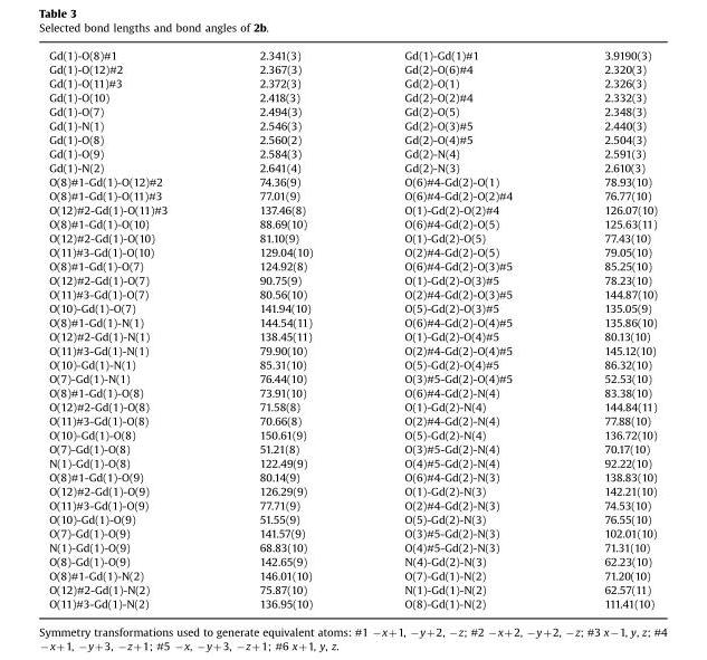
<table><tbody><tr><td>Gd(1)-O(8)#1</td><td>2.341(3)</td><td>Gd(1)-Gd(1)#1</td><td>3.9190(3)</td></tr><tr><td>Gd(1)-O(12)#2</td><td>2.367(3)</td><td>Gd(2)-O(6)#4</td><td>2.320(3)</td></tr><tr><td>Gd(1)-O(11)#3</td><td>2.372(3)</td><td>Gd(2)-O(1)</td><td>2.326(3)</td></tr><tr><td>Gd(1)-O(10)</td><td>2.418(3)</td><td>Gd(2)-O(2)#4</td><td>2.332(3)</td></tr><tr><td>Gd(1)-O(7)</td><td>2.494(3)</td><td>Gd(2)-O(5)</td><td>2.348(3)</td></tr><tr><td>Gd(1)-N(1)</td><td>2.546(3)</td><td>Gd(2)-O(3)#5</td><td>2.440(3)</td></tr><tr><td>Gd(1)-O(8)</td><td>2.560(2)</td><td>Gd(2)-O(4)#5</td><td>2.504(3)</td></tr><tr><td>Gd(1)-O(9)</td><td>2.584(3)</td><td>Gd(2)-N(4)</td><td>2.591(3)</td></tr><tr><td>Gd(1)-N(2)</td><td>2.641(4)</td><td>Gd(2)-N(3)</td><td>2.610(3)</td></tr><tr><td>O(8)#1-Gd(1)-O(12)#2</td><td>74.36(9)</td><td>O(6)#4-Gd(2)-O(1)</td><td>78.93(10)</td></tr><tr><td>O(8)#1-Gd(1)-O(11)#3</td><td>77.01(9)</td><td>O(6)#4-Gd(2)-O(2)#4</td><td>76.77(10)</td></tr><tr><td>O(12)#2-Gd(1)-O(11)#3</td><td>137.46(8)</td><td>O(1)-Gd(2)-O(2)#4</td><td>126.07(10)</td></tr><tr><td>O(8)#1-Gd(1)-O(10)</td><td>88.69(10)</td><td>O(6)#4-Gd(2)-O(5)</td><td>125.63(11)</td></tr><tr><td>O(12)#2-Gd(1)-O(10)</td><td>81.10(9)</td><td>O(1)-Gd(2)-O(5)</td><td>77.43(10)</td></tr><tr><td>O(11)#3-Gd(1)-O(10)</td><td>129.04(10)</td><td>O(2)#4-Gd(2)-O(5)</td><td>79.05(10)</td></tr><tr><td>O(8)#1-Gd(1)-O(7)</td><td>124.92(8)</td><td>O(6)#4-Gd(2)-O(3)#5</td><td>85.25(10)</td></tr><tr><td>O(12)#2-Gd(1)-O(7)</td><td>90.75(9)</td><td>O(1)-Gd(2)-O(3)#5</td><td>78.23(10)</td></tr><tr><td>O(11)#3-Gd(1)-O(7)</td><td>80.56(10)</td><td>O(2)#4-Gd(2)-O(3)#5</td><td>144.87(10)</td></tr><tr><td>O(10)-Gd(1)-O(7)</td><td>141.94(10)</td><td>O(5)-Gd(2)-O(3)#5</td><td>135.05(9)</td></tr><tr><td>O(8)#1-Gd(1)-N(1)</td><td>144.54(11)</td><td>O(6)#4-Gd(2)-O(4)#5</td><td>135.86(10)</td></tr><tr><td>O(12)#2-Gd(1)-N(1)</td><td>138.45(11)</td><td>O(1)-Gd(2)-O(4)#5</td><td>80.13(10)</td></tr><tr><td>O(11)#3-Gd(1)-N(1)</td><td>79.90(10)</td><td>O(2)#4-Gd(2)-O(4)#5</td><td>145.12(10)</td></tr><tr><td>O(10)-Gd(1)-N(1)</td><td>85.31(10)</td><td>O(5)-Gd(2)-O(4)#5</td><td>86.32(10)</td></tr><tr><td>O(7)-Gd(1)-N(1)</td><td>76.44(10)</td><td>O(3)#5-Gd(2)-O(4)#5</td><td>52.53(10)</td></tr><tr><td>O(8)#1-Gd(1)-O(8)</td><td>73.91(10)</td><td>O(6)#4-Gd(2)-N(4)</td><td>83.38(10)</td></tr><tr><td>O(12)#2-Gd(1)-O(8)</td><td>71.58(8)</td><td>O(1)-Gd(2)-N(4)</td><td>144.84(11)</td></tr><tr><td>O(11)#3-Gd(1)-O(8)</td><td>70.66(8)</td><td>O(2)#4-Gd(2)-N(4)</td><td>77.88(10)</td></tr><tr><td>O(10)-Gd(1)-O(8)</td><td>150.61(9)</td><td>O(5)-Gd(2)-N(4)</td><td>136.72(10)</td></tr><tr><td>O(7)-Gd(1)-O(8)</td><td>51.21(8)</td><td>O(3)#5-Gd(2)-N(4)</td><td>70.17(10)</td></tr><tr><td>N(1)-Gd(1)-O(8)</td><td>122.49(9)</td><td>O(4)#5-Gd(2)-N(4)</td><td>92.22(10)</td></tr><tr><td>O(8)#1-Gd(1)-O(9)</td><td>80.14(9)</td><td>O(6)#4-Gd(2)-N(3)</td><td>138.83(10)</td></tr><tr><td>O(12)#2-Gd(1)-O(9)</td><td>126.29(9)</td><td>O(1)-Gd(2)-N(3)</td><td>142.21(10)</td></tr><tr><td>O(11)#3-Gd(1)-O(9)</td><td>77.71(9)</td><td>O(2)#4-Gd(2)-N(3)</td><td>74.53(10)</td></tr><tr><td>O(10)-Gd(1)-O(9)</td><td>51.55(9)</td><td>O(5)-Gd(2)-N(3)</td><td>76.55(10)</td></tr><tr><td>O(7)-Gd(1)-O(9)</td><td>141.57(9)</td><td>O(3)#5-Gd(2)-N(3)</td><td>102.01(10)</td></tr><tr><td>N(1)-Gd(1)-O(9)</td><td>68.83(10)</td><td>O(4)#5-Gd(2)-N(3)</td><td>71.31(10)</td></tr><tr><td>O(8)-Gd(1)-O(9)</td><td>142.65(9)</td><td>N(4)-Gd(2)-N(3)</td><td>62.23(10)</td></tr><tr><td>O(8)#1-Gd(1)-N(2)</td><td>146.01(10)</td><td>O(7)-Gd(1)-N(2)</td><td>71.20(10)</td></tr><tr><td>O(12)#2-Gd(1)-N(2)</td><td>75.87(10)</td><td>N(1)-Gd(1)-N(2)</td><td>62.57(11)</td></tr><tr><td>O(11)#3-Gd(1)-N(2)</td><td>136.95(10)</td><td>O(8)-Gd(1)-N(2)</td><td>111.41(10)</td></tr></tbody></table>